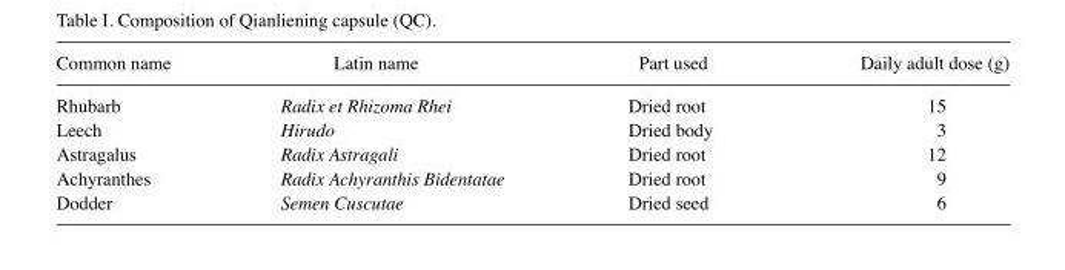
<table><thead><tr><td>Common name</td><td>Latin name</td><td>Part used</td><td>Daily adult dose (g)</td></tr></thead><tbody><tr><td>Rhubarb</td><td>Radix et Rhizoma Rhei</td><td>Dried root</td><td>15</td></tr><tr><td>Leech</td><td>Hirudo</td><td>Dried body</td><td>3</td></tr><tr><td>Astragalus</td><td>Radix Astragali</td><td>Dried root</td><td>12</td></tr><tr><td>Achyranthes</td><td>Radix Achyranthis Bidentatae</td><td>Dried root</td><td>9</td></tr><tr><td>Dodder</td><td>Semen Cuscutae</td><td>Dried seed</td><td>6</td></tr></tbody></table>